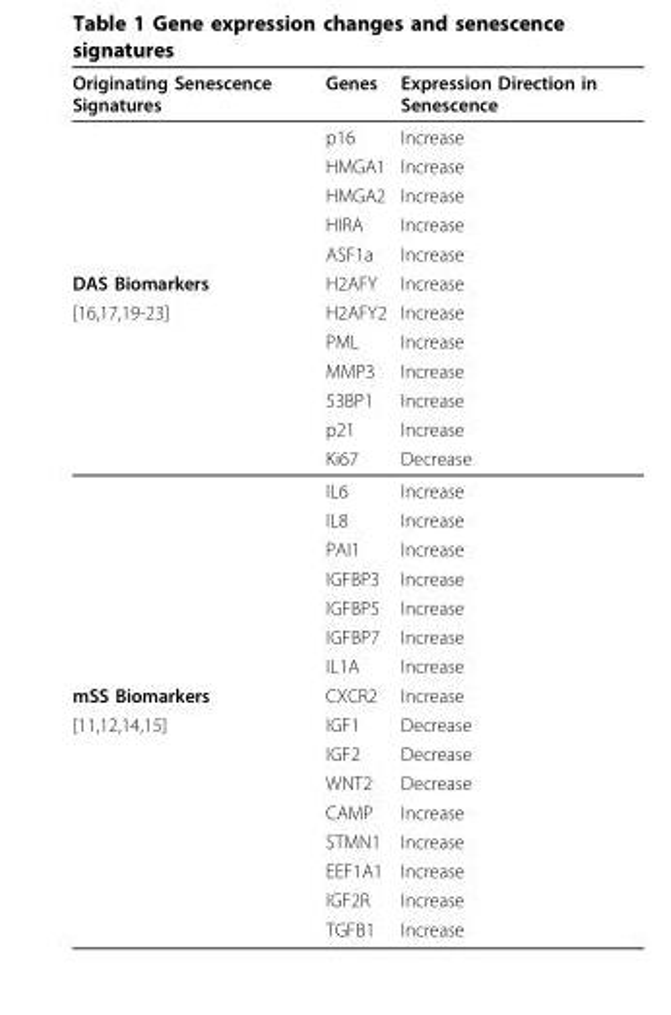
<table><thead><tr><td>Originating Senescence Signatures</td><td>Genes</td><td>Expression Direction in Senescence</td></tr></thead><tbody><tr><td></td><td>p16</td><td>Increase</td></tr><tr><td></td><td>HMGA1</td><td>Increase</td></tr><tr><td></td><td>HMGA2</td><td>Increase</td></tr><tr><td></td><td>HIRA</td><td>Increase</td></tr><tr><td></td><td>ASF1a</td><td>Increase</td></tr><tr><td>DAS Biomarkers</td><td>H2AFY</td><td>Increase</td></tr><tr><td rowspan="13">[16,17,19-23]</td><td>H2AFY2</td><td>Increase</td></tr><tr><td>PML</td><td>Increase</td></tr><tr><td>MMP3</td><td>Increase</td></tr><tr><td>53BP1</td><td>Increase</td></tr><tr><td>p21</td><td>Increase</td></tr><tr><td>Ki67</td><td>Decrease</td></tr><tr><td>IL6</td><td>Increase</td></tr><tr><td>IL8</td><td>Increase</td></tr><tr><td>PAI1</td><td>Increase</td></tr><tr><td>IGFBP3</td><td>Increase</td></tr><tr><td>IGFBP5</td><td>Increase</td></tr><tr><td>IGFBP7</td><td>Increase</td></tr><tr><td>IL1A</td><td>Increase</td></tr><tr><td>mSS Biomarkers</td><td>CXCR2</td><td>Increase</td></tr><tr><td rowspan="8">[11,12,14,15]</td><td>IGF1</td><td>Decrease</td></tr><tr><td>IGF2</td><td>Decrease</td></tr><tr><td>WNT2</td><td>Decrease</td></tr><tr><td>CAMP</td><td>Increase</td></tr><tr><td>STMN1</td><td>Increase</td></tr><tr><td>EEF1A1</td><td>Increase</td></tr><tr><td>IGF2R</td><td>Increase</td></tr><tr><td>TGFB1</td><td>Increase</td></tr></tbody></table>